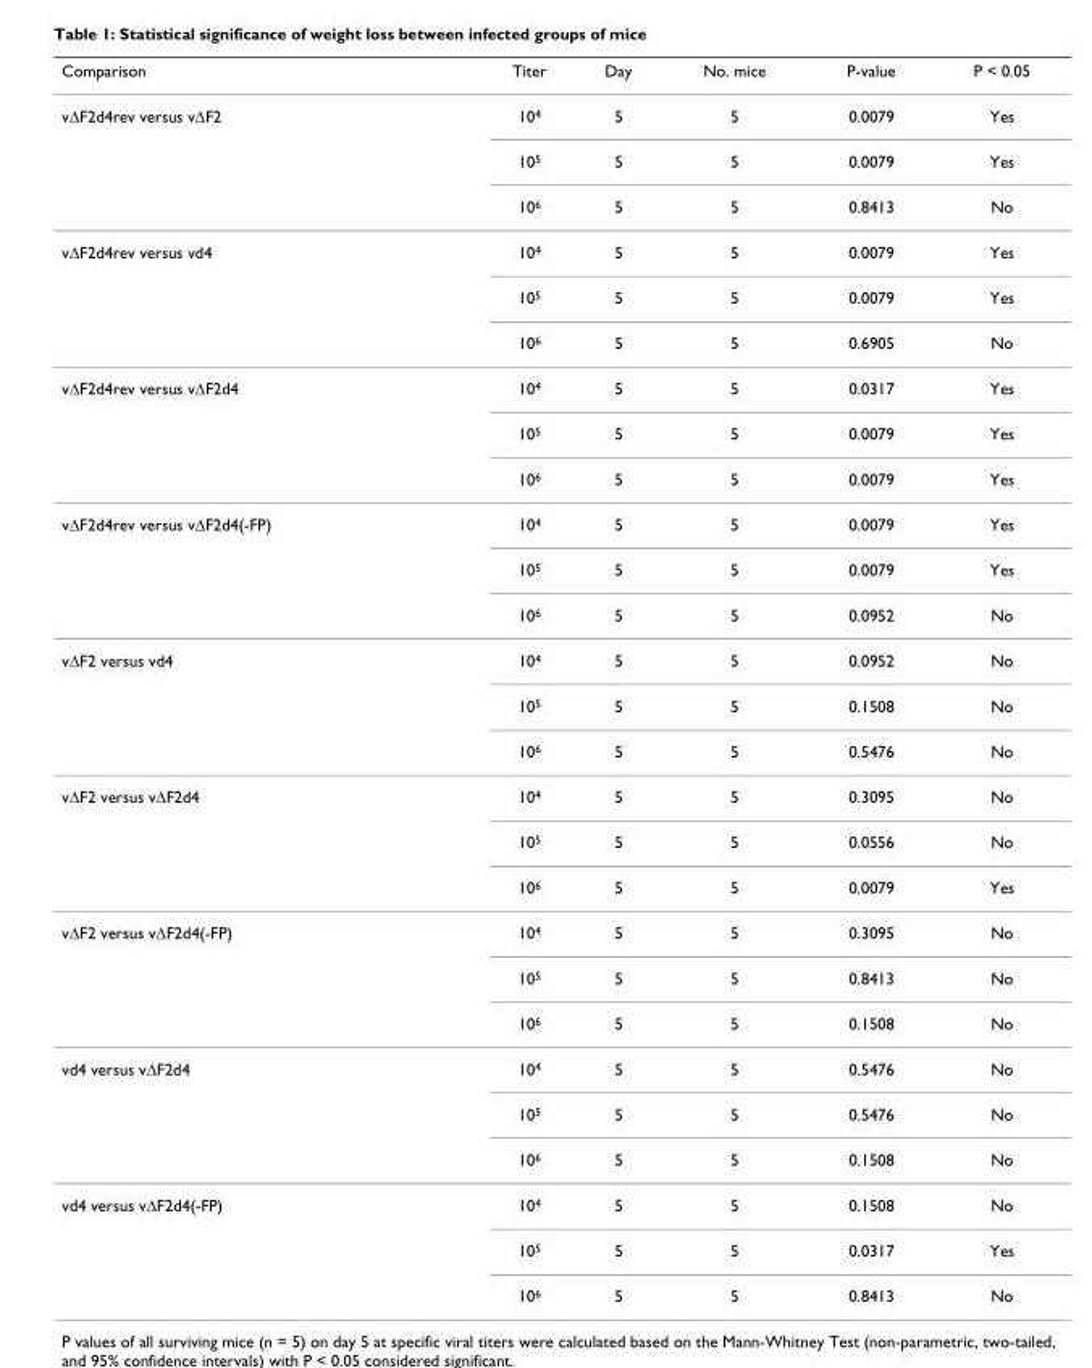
<table><thead><tr><td>Comparison</td><td>Titer</td><td>Day</td><td>No. mice</td><td>P-value</td><td>P &lt; 0.05</td></tr></thead><tbody><tr><td rowspan="3">vΔF2d4rev versus vΔF2</td><td>10<sup>4</sup></td><td>5</td><td>5</td><td>0.0079</td><td>Yes</td></tr><tr><td>10<sup>5</sup></td><td>5</td><td>5</td><td>0.0079</td><td>Yes</td></tr><tr><td>10<sup>6</sup></td><td>5</td><td>5</td><td>0.8413</td><td>No</td></tr><tr><td rowspan="3">vΔF2d4rev versus vd4</td><td>10<sup>4</sup></td><td>5</td><td>5</td><td>0.0079</td><td>Yes</td></tr><tr><td>10<sup>5</sup></td><td>5</td><td>5</td><td>0.0079</td><td>Yes</td></tr><tr><td>10<sup>6</sup></td><td>5</td><td>5</td><td>0.6905</td><td>No</td></tr><tr><td rowspan="3">vΔF2d4rev versus vΔF2d4</td><td>10<sup>4</sup></td><td>5</td><td>5</td><td>0.0317</td><td>Yes</td></tr><tr><td>10<sup>5</sup></td><td>5</td><td>5</td><td>0.0079</td><td>Yes</td></tr><tr><td>10<sup>6</sup></td><td>5</td><td>5</td><td>0.0079</td><td>Yes</td></tr><tr><td rowspan="3">vΔF2d4rev versus vΔF2d4(-FP)</td><td>10<sup>4</sup></td><td>5</td><td>5</td><td>0.0079</td><td>Yes</td></tr><tr><td>10<sup>5</sup></td><td>5</td><td>5</td><td>0.0079</td><td>Yes</td></tr><tr><td>10<sup>6</sup></td><td>5</td><td>5</td><td>0.0952</td><td>No</td></tr><tr><td rowspan="3">vΔF2 versus vd4</td><td>10<sup>4</sup></td><td>5</td><td>5</td><td>0.0952</td><td>No</td></tr><tr><td>10<sup>5</sup></td><td>5</td><td>5</td><td>0.1508</td><td>No</td></tr><tr><td>10<sup>6</sup></td><td>5</td><td>5</td><td>0.5476</td><td>No</td></tr><tr><td rowspan="3">vΔF2 versus vΔF2d4</td><td>10<sup>4</sup></td><td>5</td><td>5</td><td>0.3095</td><td>No</td></tr><tr><td>10<sup>5</sup></td><td>5</td><td>5</td><td>0.0556</td><td>No</td></tr><tr><td>10<sup>6</sup></td><td>5</td><td>5</td><td>0.0079</td><td>Yes</td></tr><tr><td rowspan="3">vΔF2 versus vΔF2d4(-FP)</td><td>10<sup>4</sup></td><td>5</td><td>5</td><td>0.3095</td><td>No</td></tr><tr><td>10<sup>5</sup></td><td>5</td><td>5</td><td>0.8413</td><td>No</td></tr><tr><td>10<sup>6</sup></td><td>5</td><td>5</td><td>0.1508</td><td>No</td></tr><tr><td rowspan="3">vd4 versus vΔF2d4</td><td>10<sup>4</sup></td><td>5</td><td>5</td><td>0.5476</td><td>No</td></tr><tr><td>10<sup>5</sup></td><td>5</td><td>5</td><td>0.5476</td><td>No</td></tr><tr><td>10<sup>6</sup></td><td>5</td><td>5</td><td>0.1508</td><td>No</td></tr><tr><td rowspan="3">vd4 versus vΔF2d4(-FP)</td><td>10<sup>4</sup></td><td>5</td><td>5</td><td>0.1508</td><td>No</td></tr><tr><td>10<sup>5</sup></td><td>5</td><td>5</td><td>0.0317</td><td>Yes</td></tr><tr><td>10<sup>6</sup></td><td>5</td><td>5</td><td>0.8413</td><td>No</td></tr></tbody></table>